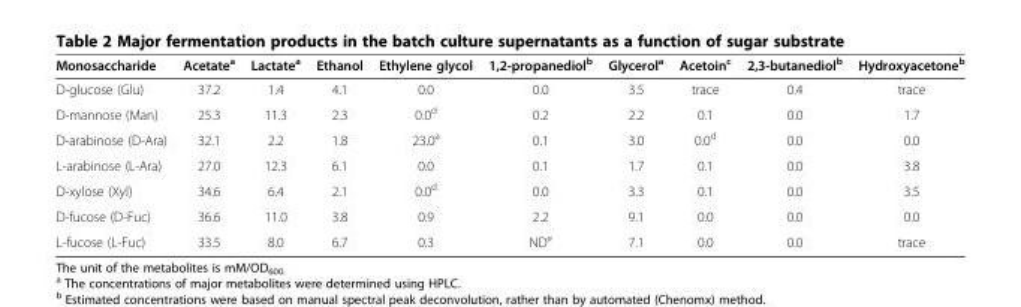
<table><thead><tr><td>Monosaccharide</td><td>Acetate<sup>a</sup></td><td>Lactate<sup>a</sup></td><td>Ethanol</td><td>Ethylene glycol</td><td>1,2-propanediol<sup>b</sup></td><td>Glycerol<sup>a</sup></td><td>Acetoin<sup>c</sup></td><td>2,3-butanediol<sup>b</sup></td><td>Hydroxyacetone<sup>b</sup></td></tr></thead><tbody><tr><td>D-glucose (Glu)</td><td>37.2</td><td>1.4</td><td>4.1</td><td>0.0</td><td>0.0</td><td>3.5</td><td>trace</td><td>0.4</td><td>trace</td></tr><tr><td>D-mannose (Man)</td><td>25.3</td><td>11.3</td><td>2.3</td><td>0.0<sup>d</sup></td><td>0.2</td><td>2.2</td><td>0.1</td><td>0.0</td><td>1.7</td></tr><tr><td>D-arabinose (D-Ara)</td><td>32.1</td><td>2.2</td><td>1.8</td><td>23.0<sup>a</sup></td><td>0.1</td><td>3.0</td><td>0.0<sup>d</sup></td><td>0.0</td><td>0.0</td></tr><tr><td>L-arabinose (L-Ara)</td><td>27.0</td><td>12.3</td><td>6.1</td><td>0.0</td><td>0.1</td><td>1.7</td><td>0.1</td><td>0.0</td><td>3.8</td></tr><tr><td>D-xylose (Xyl)</td><td>34.6</td><td>6.4</td><td>2.1</td><td>0.0<sup>d</sup></td><td>0.0</td><td>3.3</td><td>0.1</td><td>0.0</td><td>3.5</td></tr><tr><td>D-fucose (D-Fuc)</td><td>36.6</td><td>11.0</td><td>3.8</td><td>0.9</td><td>2.2</td><td>9.1</td><td>0.0</td><td>0.0</td><td>0.0</td></tr><tr><td>L-fucose (L-Fuc)</td><td>33.5</td><td>8.0</td><td>6.7</td><td>0.3</td><td>ND<sup>e</sup></td><td>7.1</td><td>0.0</td><td>0.0</td><td>trace</td></tr></tbody></table>